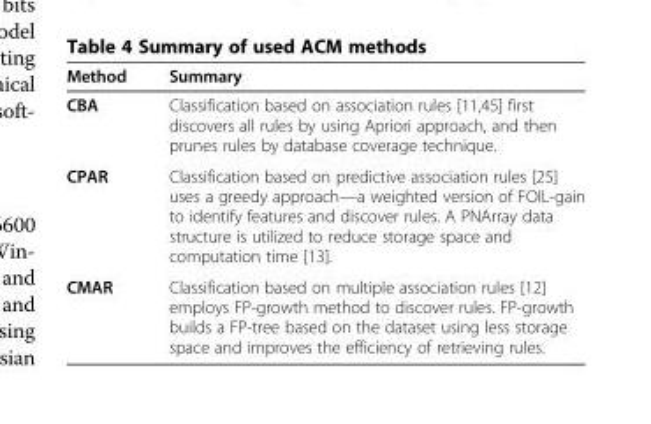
<table><thead><tr><td>Method</td><td>Summary</td></tr></thead><tbody><tr><td>CBA</td><td>Classification based on association rules [11,45] first discovers all rules by using Apriori approach, and then prunes rules by database coverage technique.</td></tr><tr><td>CPAR</td><td>Classification based on predictive association rules [25] uses a greedy approach—a weighted version of FOIL-gain to identify features and discover rules. A PNArray data structure is utilized to reduce storage space and computation time [13].</td></tr><tr><td>CMAR</td><td>Classification based on multiple association rules [12] employs FP-growth method to discover rules. FP-growth builds a FP-tree based on the dataset using less storage space and improves the efficiency of retrieving rules.</td></tr></tbody></table>